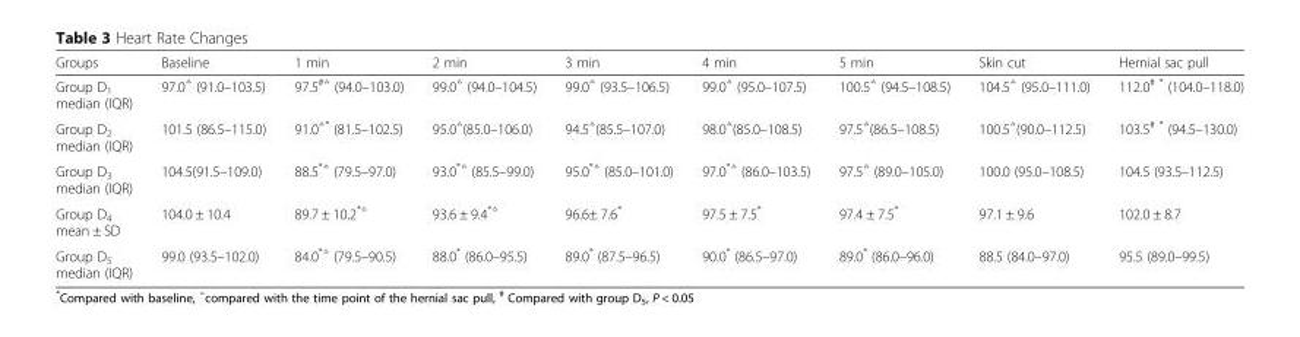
<table><thead><tr><td>Groups</td><td>Baseline</td><td>1 min</td><td>2 min</td><td>3 min</td><td>4 min</td><td>5 min</td><td>Skin cut</td><td>Hernial sac pull</td></tr></thead><tbody><tr><td>Group D<sub>1</sub> median (IQR)</td><td>97.0<sup>△</sup> (91.0–103.5)</td><td>97.5<sup>#△</sup> (94.0–103.0)</td><td>99.0<sup>△</sup> (94.0–104.5)</td><td>99.0<sup>△</sup> (93.5–106.5)</td><td>99.0<sup>△</sup> (95.0–107.5)</td><td>100.5<sup>△</sup> (94.5–108.5)</td><td>104.5<sup>△</sup> (95.0–111.0)</td><td>112.0<sup># *</sup> (104.0–118.0)</td></tr><tr><td>Group D<sub>2</sub> median (IQR)</td><td>101.5 (86.5–115.0)</td><td>91.0<sup>△*</sup> (81.5–102.5)</td><td>95.0<sup>△</sup>(85.0–106.0)</td><td>94.5<sup>△</sup>(85.5–107.0)</td><td>98.0<sup>△</sup>(85.0–108.5)</td><td>97.5<sup>△</sup>(86.5–108.5)</td><td>100.5<sup>△</sup>(90.0–112.5)</td><td>103.5<sup># *</sup> (94.5–130.0)</td></tr><tr><td>Group D<sub>3</sub> median (IQR)</td><td>104.5(91.5–109.0)</td><td>88.5<sup>*△</sup> (79.5–97.0)</td><td>93.0<sup>*△</sup> (85.5–99.0)</td><td>95.0<sup>*△</sup> (85.0–101.0)</td><td>97.0<sup>*△</sup> (86.0–103.5)</td><td>97.5<sup>△</sup> (89.0–105.0)</td><td>100.0 (95.0–108.5)</td><td>104.5 (93.5–112.5)</td></tr><tr><td>Group D<sub>4</sub> mean ± SD</td><td>104.0 ± 10.4</td><td>89.7 ± 10.2<sup>*△</sup></td><td>93.6 ± 9.4<sup>*△</sup></td><td>96.6± 7.6*</td><td>97.5 ± 7.5*</td><td>97.4 ± 7.5*</td><td>97.1 ± 9.6</td><td>102.0 ± 8.7</td></tr><tr><td>Group D<sub>5</sub> median (IQR)</td><td>99.0 (93.5–102.0)</td><td>84.0<sup>*△</sup> (79.5–90.5)</td><td>88.0* (86.0–95.5)</td><td>89.0* (87.5–96.5)</td><td>90.0* (86.5–97.0)</td><td>89.0* (86.0–96.0)</td><td>88.5 (84.0–97.0)</td><td>95.5 (89.0–99.5)</td></tr></tbody></table>